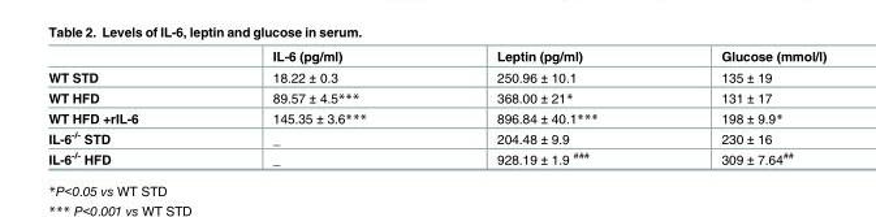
<table><thead><tr><td></td><td>IL-6 (pg/ml)</td><td>Leptin (pg/ml)</td><td>Glucose (mmol/l)</td></tr></thead><tbody><tr><td>WT STD</td><td>18.22 ± 0.3</td><td>250.96 ± 10.1</td><td>135 ± 19</td></tr><tr><td>WT HFD</td><td>89.57 ± 4.5***</td><td>368.00 ± 21*</td><td>131 ± 17</td></tr><tr><td>WT HFD +rIL-6</td><td>145.35 ± 3.6***</td><td>896.84 ± 40.1***</td><td>198 ± 9.9*</td></tr><tr><td>IL-6<sup>-/-</sup> STD</td><td>_</td><td>204.48 ± 9.9</td><td>230 ± 16</td></tr><tr><td>IL-6<sup>-/-</sup> HFD</td><td>_</td><td>928.19 ± 1.9 <sup>###</sup></td><td>309 ± 7.64<sup>##</sup></td></tr></tbody></table>